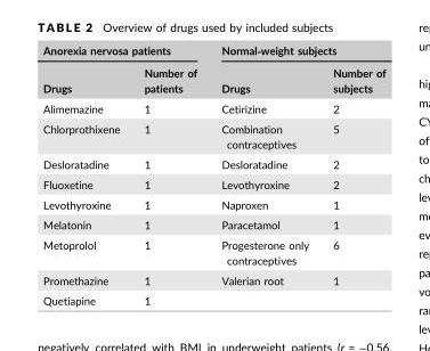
<table><thead><tr><td colspan="2">Anorexia nervosa patients</td><td colspan="2">Normal‐weight subjects</td></tr><tr><td>Drugs</td><td>Number of patients</td><td>Drugs</td><td>Number of subjects</td></tr></thead><tbody><tr><td>Alimemazine</td><td>1</td><td>Cetirizine</td><td>2</td></tr><tr><td>Chlorprothixene</td><td>1</td><td>Combination contraceptives</td><td>5</td></tr><tr><td>Desloratadine</td><td>1</td><td>Desloratadine</td><td>2</td></tr><tr><td>Fluoxetine</td><td>1</td><td>Levothyroxine</td><td>2</td></tr><tr><td>Levothyroxine</td><td>1</td><td>Naproxen</td><td>1</td></tr><tr><td>Melatonin</td><td>1</td><td>Paracetamol</td><td>1</td></tr><tr><td>Metoprolol</td><td>1</td><td>Progesterone only contraceptives</td><td>6</td></tr><tr><td>Promethazine</td><td>1</td><td>Valerian root</td><td>1</td></tr><tr><td>Quetiapine</td><td>1</td><td></td><td></td></tr></tbody></table>